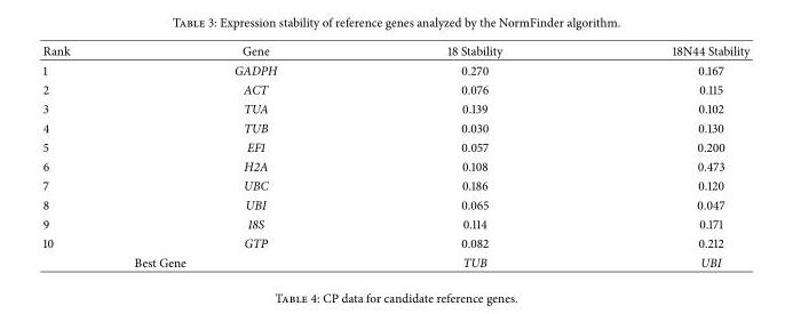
<table><thead><tr><td>Rank</td><td>Gene</td><td>18 Stability</td><td>18N44 Stability</td></tr></thead><tbody><tr><td>1</td><td>GADPH</td><td>0.270</td><td>0.167</td></tr><tr><td>2</td><td>ACT</td><td>0.076</td><td>0.115</td></tr><tr><td>3</td><td>TUA</td><td>0.139</td><td>0.102</td></tr><tr><td>4</td><td>TUB</td><td>0.030</td><td>0.130</td></tr><tr><td>5</td><td>EF1</td><td>0.057</td><td>0.200</td></tr><tr><td>6</td><td>H2A</td><td>0.108</td><td>0.473</td></tr><tr><td>7</td><td>UBC</td><td>0.186</td><td>0.120</td></tr><tr><td>8</td><td>UBI</td><td>0.065</td><td>0.047</td></tr><tr><td>9</td><td>18S</td><td>0.114</td><td>0.171</td></tr><tr><td>10</td><td>GTP</td><td>0.082</td><td>0.212</td></tr><tr><td colspan="2">Best Gene</td><td>TUB</td><td>UBI</td></tr></tbody></table>